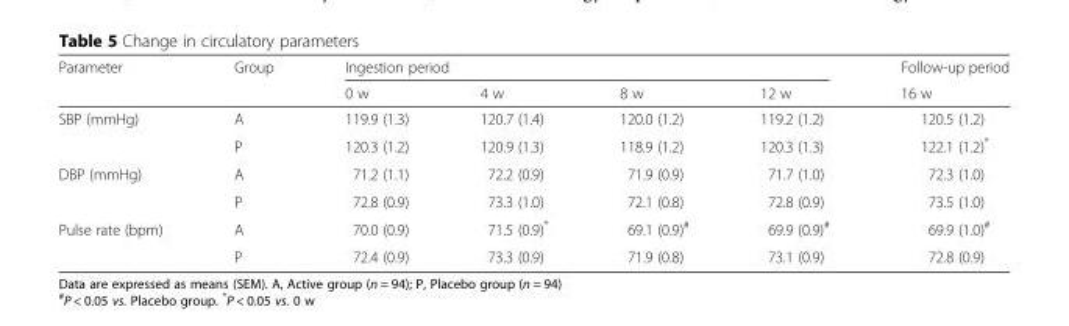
<table><thead><tr><td rowspan="2">Parameter</td><td rowspan="2">Group</td><td colspan="4">Ingestion period</td><td rowspan="2">Follow-up period 16 w</td></tr><tr><td>0 w</td><td>4 w</td><td>8 w</td><td>12 w</td></tr></thead><tbody><tr><td rowspan="2">SBP (mmHg)</td><td>A</td><td>119.9 (1.3)</td><td>120.7 (1.4)</td><td>120.0 (1.2)</td><td>119.2 (1.2)</td><td>120.5 (1.2)</td></tr><tr><td>P</td><td>120.3 (1.2)</td><td>120.9 (1.3)</td><td>118.9 (1.2)</td><td>120.3 (1.3)</td><td>122.1 (1.2)*</td></tr><tr><td rowspan="2">DBP (mmHg)</td><td>A</td><td>71.2 (1.1)</td><td>72.2 (0.9)</td><td>71.9 (0.9)</td><td>71.7 (1.0)</td><td>72.3 (1.0)</td></tr><tr><td>P</td><td>72.8 (0.9)</td><td>73.3 (1.0)</td><td>72.1 (0.8)</td><td>72.8 (0.9)</td><td>73.5 (1.0)</td></tr><tr><td rowspan="2">Pulse rate (bpm)</td><td>A</td><td>70.0 (0.9)</td><td>71.5 (0.9)*</td><td>69.1 (0.9)<sup>#</sup></td><td>69.9 (0.9)<sup>#</sup></td><td>69.9 (1.0)<sup>#</sup></td></tr><tr><td>P</td><td>72.4 (0.9)</td><td>73.3 (0.9)</td><td>71.9 (0.8)</td><td>73.1 (0.9)</td><td>72.8 (0.9)</td></tr></tbody></table>